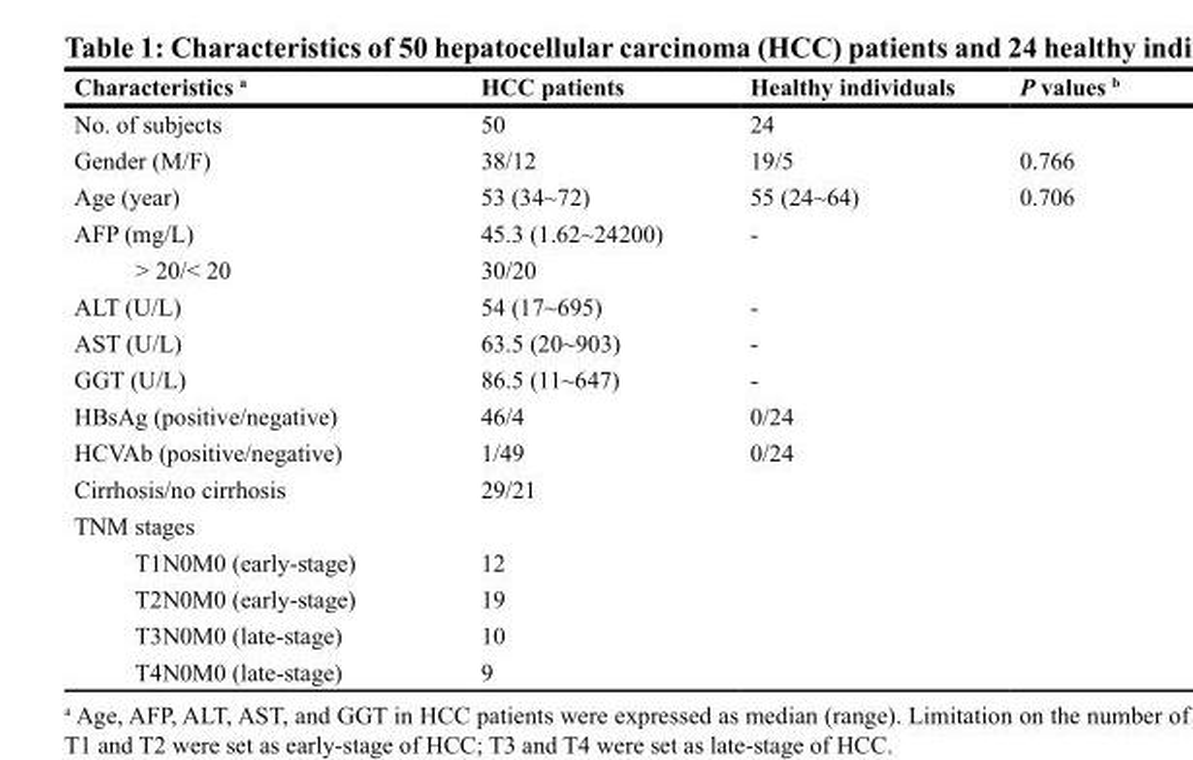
<table><thead><tr><td>Characteristics <sup>a</sup></td><td>HCC patients</td><td>Healthy individuals</td><td>P values <sup>b</sup></td></tr></thead><tbody><tr><td>No. of subjects</td><td>50</td><td>24</td><td></td></tr><tr><td>Gender (M/F)</td><td>38/12</td><td>19/5</td><td>0.766</td></tr><tr><td>Age (year)</td><td>53 (34~72)</td><td>55 (24~64)</td><td>0.706</td></tr><tr><td>AFP (mg/L)</td><td>45.3 (1.62~24200)</td><td>-</td><td></td></tr><tr><td>&gt; 20/&lt; 20</td><td>30/20</td><td></td><td></td></tr><tr><td>ALT (U/L)</td><td>54 (17~695)</td><td>-</td><td></td></tr><tr><td>AST (U/L)</td><td>63.5 (20~903)</td><td>-</td><td></td></tr><tr><td>GGT (U/L)</td><td>86.5 (11~647)</td><td>-</td><td></td></tr><tr><td>HBsAg (positive/negative)</td><td>46/4</td><td>0/24</td><td></td></tr><tr><td>HCVAb (positive/negative)</td><td>1/49</td><td>0/24</td><td></td></tr><tr><td>Cirrhosis/no cirrhosis</td><td>29/21</td><td></td><td></td></tr><tr><td colspan="4">TNM stages</td></tr><tr><td>T1N0M0 (early-stage)</td><td>12</td><td></td><td></td></tr><tr><td>T2N0M0 (early-stage)</td><td>19</td><td></td><td></td></tr><tr><td>T3N0M0 (late-stage)</td><td>10</td><td></td><td></td></tr><tr><td>T4N0M0 (late-stage)</td><td>9</td><td></td><td></td></tr></tbody></table>